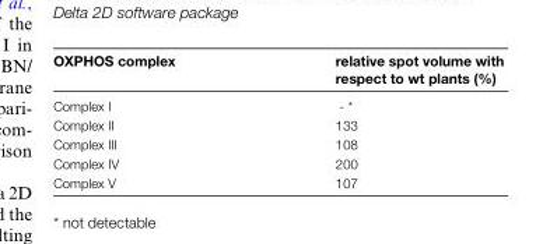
<table><thead><tr><td>OXPHOS complex</td><td>relative spot volume with respect to wt plants (%)</td></tr></thead><tbody><tr><td>Complex I</td><td>- *</td></tr><tr><td>Complex II</td><td>133</td></tr><tr><td>Complex III</td><td>108</td></tr><tr><td>Complex IV</td><td>200</td></tr><tr><td>Complex V</td><td>107</td></tr></tbody></table>